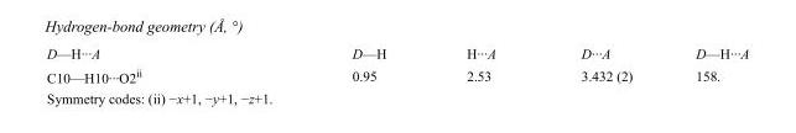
<table><tbody><tr><td>D—H···A</td><td>D—H</td><td>H···A</td><td>D···A</td><td>D—H···A</td></tr><tr><td>C10—H10···O2<sup>ii</sup></td><td>0.95</td><td>2.53</td><td>3.432 (2)</td><td>158.</td></tr></tbody></table>